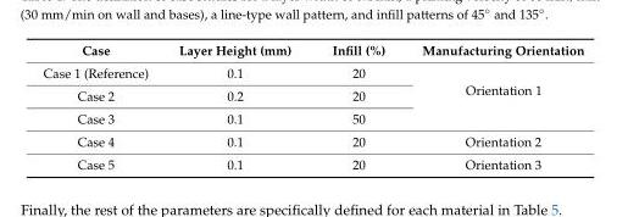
<table><thead><tr><td>Case</td><td>Layer Height (mm)</td><td>Infill (%)</td><td>Manufacturing Orientation</td></tr></thead><tbody><tr><td>Case 1 (Reference)</td><td>0.1</td><td>20</td><td rowspan="3">Orientation 1</td></tr><tr><td>Case 2</td><td>0.2</td><td>20</td></tr><tr><td>Case 3</td><td>0.1</td><td>50</td></tr><tr><td>Case 4</td><td>0.1</td><td>20</td><td>Orientation 2</td></tr><tr><td>Case 5</td><td>0.1</td><td>20</td><td>Orientation 3</td></tr></tbody></table>